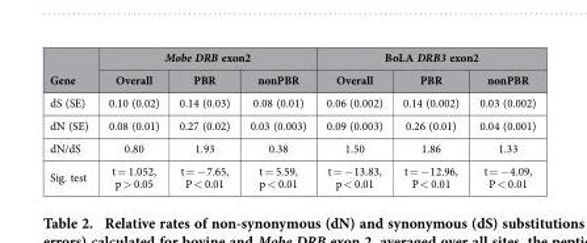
<table><thead><tr><td rowspan="2">Gene</td><td colspan="3">Mobe DRB exon2</td><td colspan="3">BoLA DRB3 exon2</td></tr><tr><td>Overall</td><td>PBR</td><td>nonPBR</td><td>Overall</td><td>PBR</td><td>nonPBR</td></tr></thead><tbody><tr><td>dS (SE)</td><td>0.10 (0.02)</td><td>0.14 (0.03)</td><td>0.08 (0.01)</td><td>0.06 (0.002)</td><td>0.14 (0.002)</td><td>0.03 (0.002)</td></tr><tr><td>dN (SE)</td><td>0.08 (0.01)</td><td>0.27 (0.02)</td><td>0.03 (0.003)</td><td>0.09 (0.003)</td><td>0.26 (0.01)</td><td>0.04 (0.001)</td></tr><tr><td>dN/dS</td><td>0.80</td><td>1.93</td><td>0.38</td><td>1.50</td><td>1.86</td><td>1.33</td></tr><tr><td>Sig. test</td><td>t = 1.052, p &gt; 0.05</td><td>t = − 7.65, P &lt; 0.01</td><td>t = 5.59, p &lt; 0.01</td><td>t = − 13.83, p &lt; 0.01</td><td>t = − 12.96, P &lt; 0.01</td><td>t = − 4.09, P &lt; 0.01</td></tr></tbody></table>